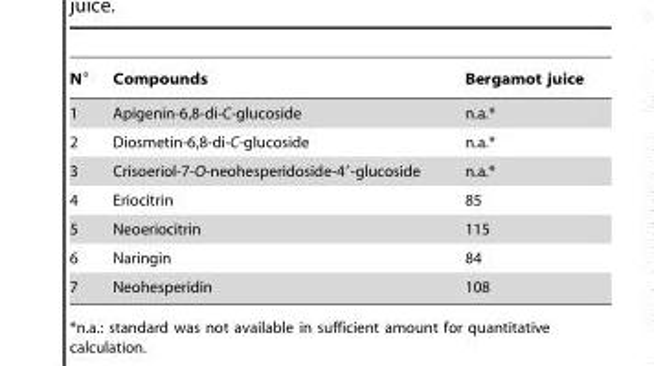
<table><thead><tr><td>N°</td><td>Compounds</td><td>Bergamot juice</td></tr></thead><tbody><tr><td>1</td><td>Apigenin-6,8-di-C-glucoside</td><td>n.a.*</td></tr><tr><td>2</td><td>Diosmetin-6,8-di-C-glucoside</td><td>n.a.*</td></tr><tr><td>3</td><td>Crisoeriol-7-O-neohesperidoside-4′-glucoside</td><td>n.a.*</td></tr><tr><td>4</td><td>Eriocitrin</td><td>85</td></tr><tr><td>5</td><td>Neoeriocitrin</td><td>115</td></tr><tr><td>6</td><td>Naringin</td><td>84</td></tr><tr><td>7</td><td>Neohesperidin</td><td>108</td></tr></tbody></table>